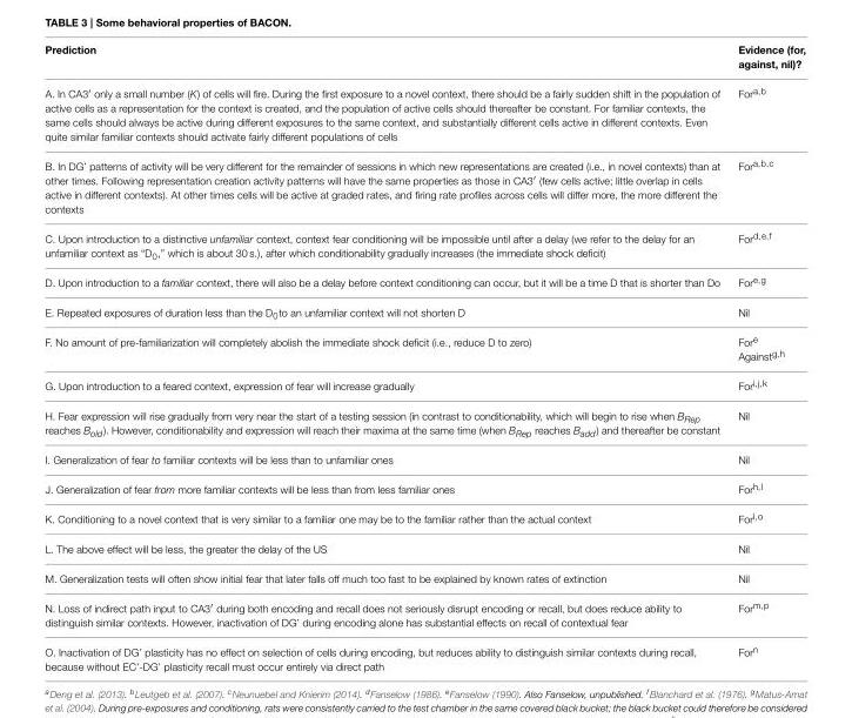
<table><thead><tr><td>Prediction</td><td>Evidence (for, against, nil)?</td></tr></thead><tbody><tr><td>A. In CA3′ only a small number (K) of cells will fire. During the first exposure to a novel context, there should be a fairly sudden shift in the population of active cells as a representation for the context is created, and the population of active cells should thereafter be constant. For familiar contexts, the same cells should always be active during different exposures to the same context, and substantially different cells active in different contexts. Even quite similar familiar contexts should activate fairly different populations of cells</td><td>For<sup>a,b</sup></td></tr><tr><td>B. In DG’ patterns of activity will be very different for the remainder of sessions in which new representations are created (i.e., in novel contexts) than at other times. Following representation creation activity patterns will have the same properties as those in CA3′ (few cells active; little overlap in cells active in different contexts). At other times cells will be active at graded rates, and firing rate profiles across cells will differ more, the more different the contexts</td><td>For<sup>a,b,c</sup></td></tr><tr><td>C. Upon introduction to a distinctive unfamiliar context, context fear conditioning will be impossible until after a delay (we refer to the delay for an unfamiliar context as “D<sub>0</sub>,” which is about 30 s.), after which conditionability gradually increases (the immediate shock deficit)</td><td>For<sup>d,e,f</sup></td></tr><tr><td>D. Upon introduction to a familiar context, there will also be a delay before context conditioning can occur, but it will be a time D that is shorter than Do</td><td>For<sup>e,g</sup></td></tr><tr><td>E. Repeated exposures of duration less than the D<sub>0</sub>to an unfamiliar context will not shorten D</td><td>Nil</td></tr><tr><td>F. No amount of pre-familiarization will completely abolish the immediate shock deficit (i.e., reduce D to zero)</td><td>For<sup>e</sup> Against<sup>g,h</sup></td></tr><tr><td>G. Upon introduction to a feared context, expression of fear will increase gradually</td><td>For<sup>i,j,k</sup></td></tr><tr><td>H. Fear expression will rise gradually from very near the start of a testing session (in contrast to conditionability, which will begin to rise when B<sub>Rep</sub> reaches B<sub>old</sub>). However, conditionability and expression will reach their maxima at the same time (when B<sub>Rep</sub> reaches B<sub>add</sub>) and thereafter be constant</td><td>Nil</td></tr><tr><td>I. Generalization of fear to familiar contexts will be less than to unfamiliar ones</td><td>Nil</td></tr><tr><td>J. Generalization of fear from more familiar contexts will be less than from less familiar ones</td><td>For<sup>h,l</sup></td></tr><tr><td>K. Conditioning to a novel context that is very similar to a familiar one may be to the familiar rather than the actual context</td><td>For<sup>l,o</sup></td></tr><tr><td>L. The above effect will be less, the greater the delay of the US</td><td>Nil</td></tr><tr><td>M. Generalization tests will often show initial fear that later falls off much too fast to be explained by known rates of extinction</td><td>Nil</td></tr><tr><td>N. Loss of indirect path input to CA3′ during both encoding and recall does not seriously disrupt encoding or recall, but does reduce ability to distinguish similar contexts. However, inactivation of DG’ during encoding alone has substantial effects on recall of contextual fear</td><td>For<sup>m,p</sup></td></tr><tr><td>O. Inactivation of DG’ plasticity has no effect on selection of cells during encoding, but reduces ability to distinguish similar contexts during recall, because without EC’-DG’ plasticity recall must occur entirely via direct path</td><td>For<sup>n</sup></td></tr></tbody></table>